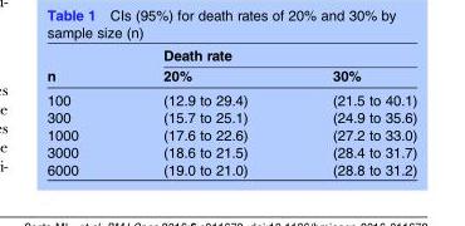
<table><thead><tr><td rowspan="2">n</td><td colspan="2">Death rate</td></tr><tr><td>20%</td><td>30%</td></tr></thead><tbody><tr><td>100</td><td>(12.9 to 29.4)</td><td>(21.5 to 40.1)</td></tr><tr><td>300</td><td>(15.7 to 25.1)</td><td>(24.9 to 35.6)</td></tr><tr><td>1000</td><td>(17.6 to 22.6)</td><td>(27.2 to 33.0)</td></tr><tr><td>3000</td><td>(18.6 to 21.5)</td><td>(28.4 to 31.7)</td></tr><tr><td>6000</td><td>(19.0 to 21.0)</td><td>(28.8 to 31.2)</td></tr></tbody></table>